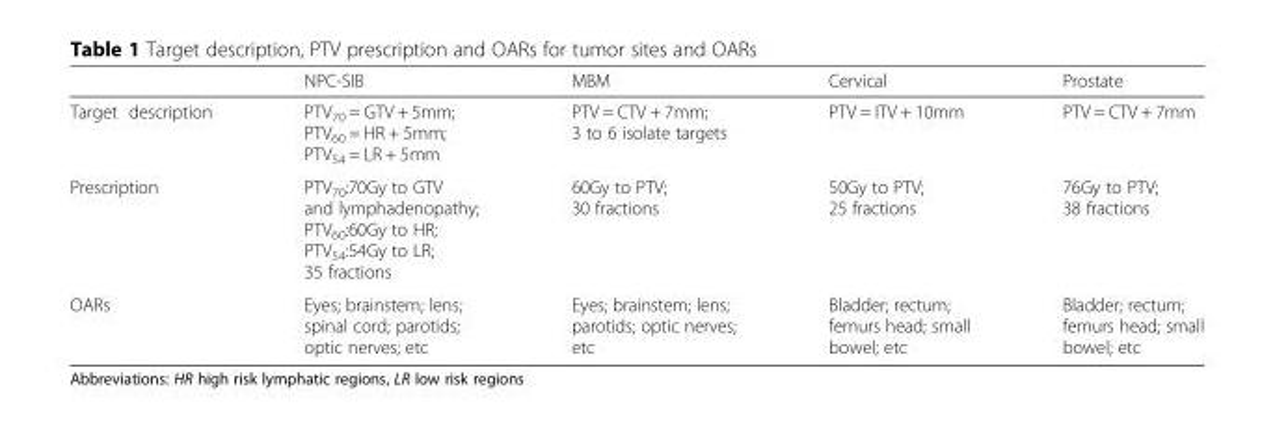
<table><thead><tr><td></td><td>NPC-SIB</td><td>MBM</td><td>Cervical</td><td>Prostate</td></tr></thead><tbody><tr><td>Target description</td><td>PTV<sub>70</sub> = GTV + 5mm; PTV<sub>60</sub> = HR + 5mm; PTV<sub>54</sub> = LR + 5mm</td><td>PTV = CTV + 7mm; 3 to 6 isolate targets</td><td>PTV = ITV + 10mm</td><td>PTV = CTV + 7mm</td></tr><tr><td>Prescription</td><td>PTV<sub>70</sub>:70Gy to GTV and lymphadenopathy; PTV<sub>60</sub>:60Gy to HR; PTV<sub>54</sub>:54Gy to LR; 35 fractions</td><td>60Gy to PTV; 30 fractions</td><td>50Gy to PTV; 25 fractions</td><td>76Gy to PTV; 38 fractions</td></tr><tr><td>OARs</td><td>Eyes; brainstem; lens; spinal cord; parotids; optic nerves; etc</td><td>Eyes; brainstem; lens; parotids; optic nerves; etc</td><td>Bladder; rectum; femurs head; small bowel; etc</td><td>Bladder; rectum; femurs head; small bowel; etc</td></tr></tbody></table>